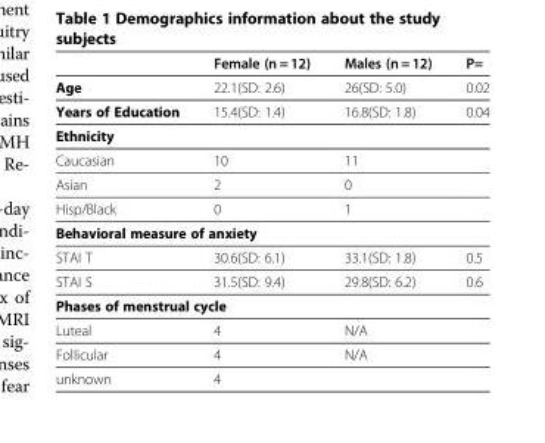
<table><thead><tr><td></td><td>Female (n = 12)</td><td>Males (n = 12)</td><td>P=</td></tr></thead><tbody><tr><td>Age</td><td>22.1(SD: 2.6)</td><td>26(SD: 5.0)</td><td>0.02</td></tr><tr><td>Years of Education</td><td>15.4(SD: 1.4)</td><td>16.8(SD: 1.8)</td><td>0.04</td></tr><tr><td colspan="4">Ethnicity</td></tr><tr><td>Caucasian</td><td>10</td><td>11</td><td></td></tr><tr><td>Asian</td><td>2</td><td>0</td><td></td></tr><tr><td>Hisp/Black</td><td>0</td><td>1</td><td></td></tr><tr><td colspan="4">Behavioral measure of anxiety</td></tr><tr><td>STAI T</td><td>30.6(SD: 6.1)</td><td>33.1(SD: 1.8)</td><td>0.5</td></tr><tr><td>STAI S</td><td>31.5(SD: 9.4)</td><td>29.8(SD: 6.2)</td><td>0.6</td></tr><tr><td colspan="4">Phases of menstrual cycle</td></tr><tr><td>Luteal</td><td>4</td><td>N/A</td><td></td></tr><tr><td>Follicular</td><td>4</td><td>N/A</td><td></td></tr><tr><td>unknown</td><td>4</td><td></td><td></td></tr></tbody></table>